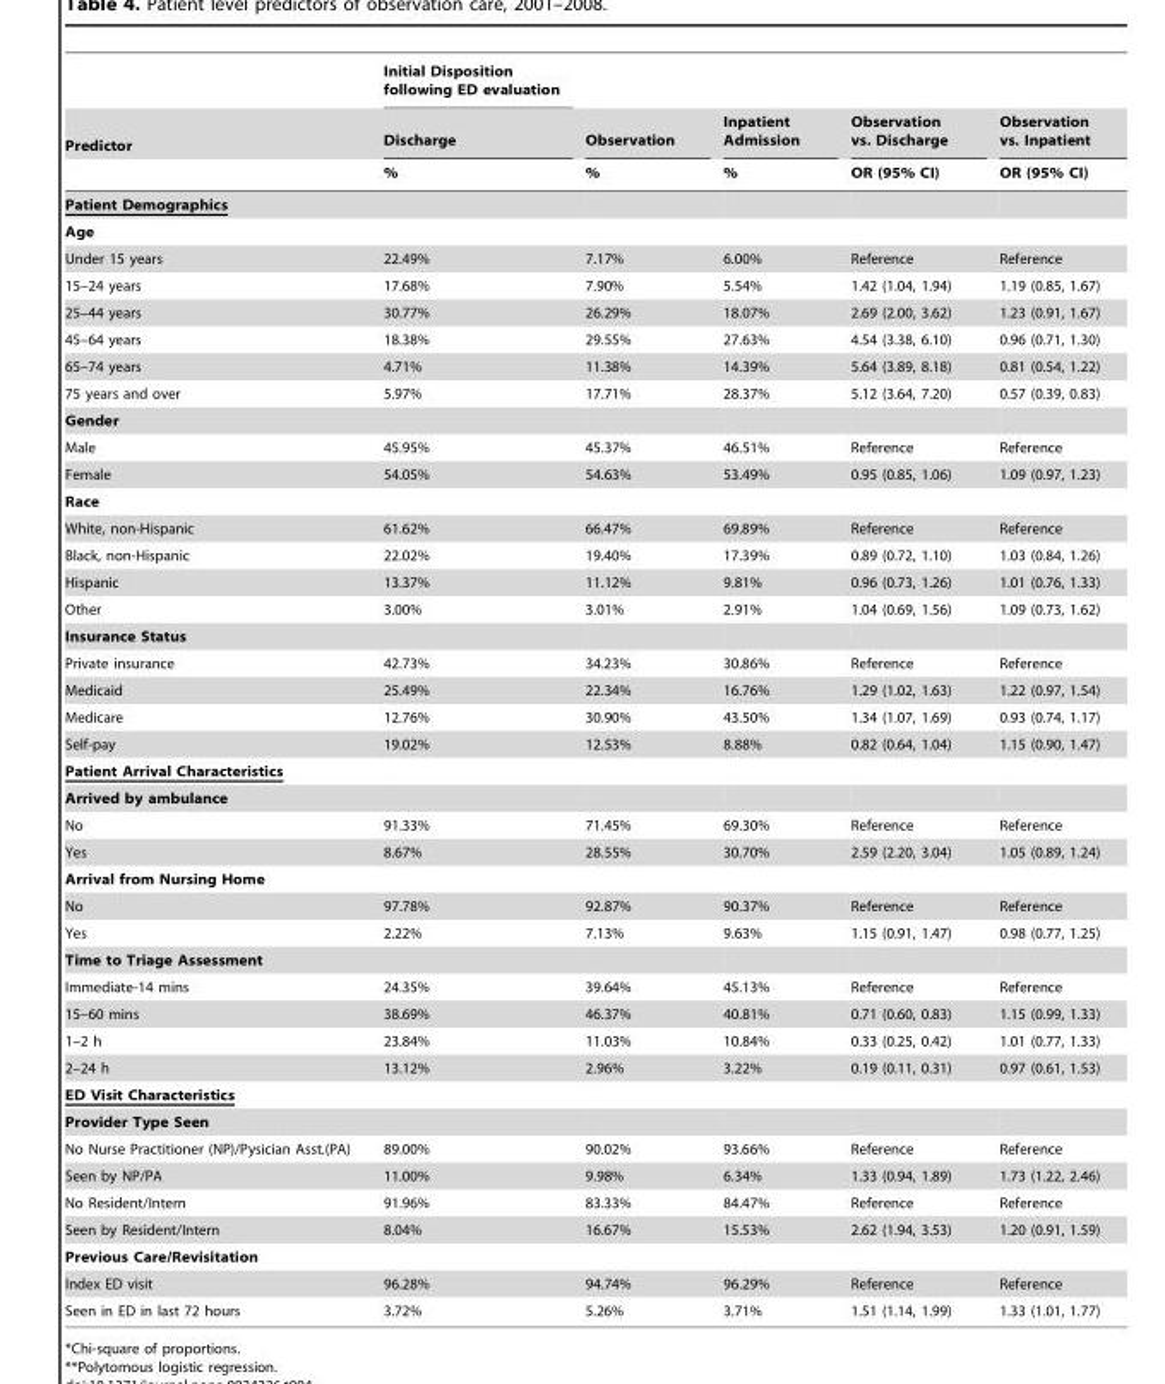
<table><thead><tr><td rowspan="3">Predictor</td><td rowspan="3">Initial Disposition following ED evaluation Discharge %</td><td rowspan="3">Observation %</td><td rowspan="3">Inpatient Admission %</td><td rowspan="3">Observation vs. Discharge OR (95% CI)</td><td rowspan="3">Observation vs. Inpatient OR (95% CI)</td></tr><tr></tr><tr></tr></thead><tbody><tr><td colspan="6">Patient Demographics</td></tr><tr><td colspan="6">Age</td></tr><tr><td>Under 15 years</td><td>22.49%</td><td>7.17%</td><td>6.00%</td><td>Reference</td><td>Reference</td></tr><tr><td>15–24 years</td><td>17.68%</td><td>7.90%</td><td>5.54%</td><td>1.42 (1.04, 1.94)</td><td>1.19 (0.85, 1.67)</td></tr><tr><td>25–44 years</td><td>30.77%</td><td>26.29%</td><td>18.07%</td><td>2.69 (2.00, 3.62)</td><td>1.23 (0.91, 1.67)</td></tr><tr><td>45–64 years</td><td>18.38%</td><td>29.55%</td><td>27.63%</td><td>4.54 (3.38, 6.10)</td><td>0.96 (0.71, 1.30)</td></tr><tr><td>65–74 years</td><td>4.71%</td><td>11.38%</td><td>14.39%</td><td>5.64 (3.89, 8.18)</td><td>0.81 (0.54, 1.22)</td></tr><tr><td>75 years and over</td><td>5.97%</td><td>17.71%</td><td>28.37%</td><td>5.12 (3.64, 7.20)</td><td>0.57 (0.39, 0.83)</td></tr><tr><td colspan="6">Gender</td></tr><tr><td>Male</td><td>45.95%</td><td>45.37%</td><td>46.51%</td><td>Reference</td><td>Reference</td></tr><tr><td>Female</td><td>54.05%</td><td>54.63%</td><td>53.49%</td><td>0.95 (0.85, 1.06)</td><td>1.09 (0.97, 1.23)</td></tr><tr><td colspan="6">Race</td></tr><tr><td>White, non-Hispanic</td><td>61.62%</td><td>66.47%</td><td>69.89%</td><td>Reference</td><td>Reference</td></tr><tr><td>Black, non-Hispanic</td><td>22.02%</td><td>19.40%</td><td>17.39%</td><td>0.89 (0.72, 1.10)</td><td>1.03 (0.84, 1.26)</td></tr><tr><td>Hispanic</td><td>13.37%</td><td>11.12%</td><td>9.81%</td><td>0.96 (0.73, 1.26)</td><td>1.01 (0.76, 1.33)</td></tr><tr><td>Other</td><td>3.00%</td><td>3.01%</td><td>2.91%</td><td>1.04 (0.69, 1.56)</td><td>1.09 (0.73, 1.62)</td></tr><tr><td colspan="6">Insurance Status</td></tr><tr><td>Private insurance</td><td>42.73%</td><td>34.23%</td><td>30.86%</td><td>Reference</td><td>Reference</td></tr><tr><td>Medicaid</td><td>25.49%</td><td>22.34%</td><td>16.76%</td><td>1.29 (1.02, 1.63)</td><td>1.22 (0.97, 1.54)</td></tr><tr><td>Medicare</td><td>12.76%</td><td>30.90%</td><td>43.50%</td><td>1.34 (1.07, 1.69)</td><td>0.93 (0.74, 1.17)</td></tr><tr><td>Self-pay</td><td>19.02%</td><td>12.53%</td><td>8.88%</td><td>0.82 (0.64, 1.04)</td><td>1.15 (0.90, 1.47)</td></tr><tr><td colspan="6">Patient Arrival Characteristics</td></tr><tr><td colspan="6">Arrived by ambulance</td></tr><tr><td>No</td><td>91.33%</td><td>71.45%</td><td>69.30%</td><td>Reference</td><td>Reference</td></tr><tr><td>Yes</td><td>8.67%</td><td>28.55%</td><td>30.70%</td><td>2.59 (2.20, 3.04)</td><td>1.05 (0.89, 1.24)</td></tr><tr><td colspan="6">Arrival from Nursing Home</td></tr><tr><td>No</td><td>97.78%</td><td>92.87%</td><td>90.37%</td><td>Reference</td><td>Reference</td></tr><tr><td>Yes</td><td>2.22%</td><td>7.13%</td><td>9.63%</td><td>1.15 (0.91, 1.47)</td><td>0.98 (0.77, 1.25)</td></tr><tr><td colspan="6">Time to Triage Assessment</td></tr><tr><td>Immediate-14 mins</td><td>24.35%</td><td>39.64%</td><td>45.13%</td><td>Reference</td><td>Reference</td></tr><tr><td>15–60 mins</td><td>38.69%</td><td>46.37%</td><td>40.81%</td><td>0.71 (0.60, 0.83)</td><td>1.15 (0.99, 1.33)</td></tr><tr><td>1–2 h</td><td>23.84%</td><td>11.03%</td><td>10.84%</td><td>0.33 (0.25, 0.42)</td><td>1.01 (0.77, 1.33)</td></tr><tr><td>2–24 h</td><td>13.12%</td><td>2.96%</td><td>3.22%</td><td>0.19 (0.11, 0.31)</td><td>0.97 (0.61, 1.53)</td></tr><tr><td colspan="6">ED Visit Characteristics</td></tr><tr><td colspan="6">Provider Type Seen</td></tr><tr><td>No Nurse Practitioner (NP)/Pysician Asst.(PA)</td><td>89.00%</td><td>90.02%</td><td>93.66%</td><td>Reference</td><td>Reference</td></tr><tr><td>Seen by NP/PA</td><td>11.00%</td><td>9.98%</td><td>6.34%</td><td>1.33 (0.94, 1.89)</td><td>1.73 (1.22, 2.46)</td></tr><tr><td>No Resident/Intern</td><td>91.96%</td><td>83.33%</td><td>84.47%</td><td>Reference</td><td>Reference</td></tr><tr><td>Seen by Resident/Intern</td><td>8.04%</td><td>16.67%</td><td>15.53%</td><td>2.62 (1.94, 3.53)</td><td>1.20 (0.91, 1.59)</td></tr><tr><td colspan="6">Previous Care/Revisitation</td></tr><tr><td>Index ED visit</td><td>96.28%</td><td>94.74%</td><td>96.29%</td><td>Reference</td><td>Reference</td></tr><tr><td>Seen in ED in last 72 hours</td><td>3.72%</td><td>5.26%</td><td>3.71%</td><td>1.51 (1.14, 1.99)</td><td>1.33 (1.01, 1.77)</td></tr></tbody></table>